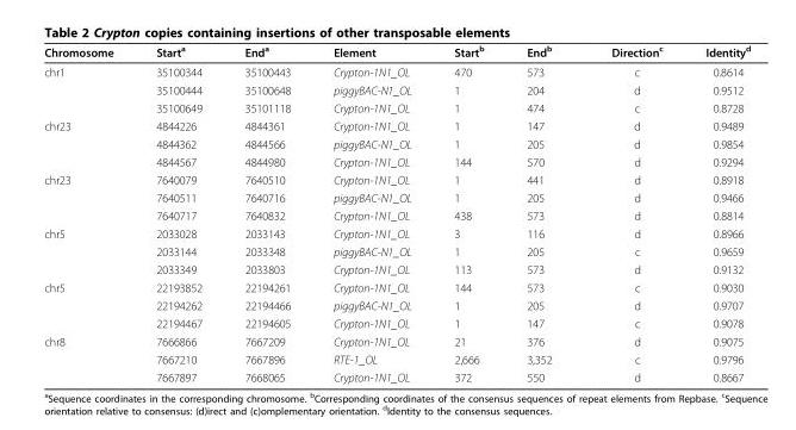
<table><thead><tr><td>Chromosome</td><td>Start<sup>a</sup></td><td>End<sup>a</sup></td><td>Element</td><td>Start<sup>b</sup></td><td>End<sup>b</sup></td><td>Direction<sup>c</sup></td><td>Identity<sup>d</sup></td></tr></thead><tbody><tr><td rowspan="3">chr1</td><td>35100344</td><td>35100443</td><td>Crypton-1N1_OL</td><td>470</td><td>573</td><td>c</td><td>0.8614</td></tr><tr><td>35100444</td><td>35100648</td><td>piggyBAC-N1_OL</td><td>1</td><td>204</td><td>d</td><td>0.9512</td></tr><tr><td>35100649</td><td>35101118</td><td>Crypton-1N1_OL</td><td>1</td><td>474</td><td>c</td><td>0.8728</td></tr><tr><td rowspan="3">chr23</td><td>4844226</td><td>4844361</td><td>Crypton-1N1_OL</td><td>1</td><td>147</td><td>d</td><td>0.9489</td></tr><tr><td>4844362</td><td>4844566</td><td>piggyBAC-N1_OL</td><td>1</td><td>205</td><td>d</td><td>0.9854</td></tr><tr><td>4844567</td><td>4844980</td><td>Crypton-1N1_OL</td><td>144</td><td>570</td><td>d</td><td>0.9294</td></tr><tr><td rowspan="3">chr23</td><td>7640079</td><td>7640510</td><td>Crypton-1N1_OL</td><td>1</td><td>441</td><td>d</td><td>0.8918</td></tr><tr><td>7640511</td><td>7640716</td><td>piggyBAC-N1_OL</td><td>1</td><td>205</td><td>d</td><td>0.9466</td></tr><tr><td>7640717</td><td>7640832</td><td>Crypton-1N1_OL</td><td>438</td><td>573</td><td>d</td><td>0.8814</td></tr><tr><td rowspan="3">chr5</td><td>2033028</td><td>2033143</td><td>Crypton-1N1_OL</td><td>3</td><td>116</td><td>d</td><td>0.8966</td></tr><tr><td>2033144</td><td>2033348</td><td>piggyBAC-N1_OL</td><td>1</td><td>205</td><td>c</td><td>0.9659</td></tr><tr><td>2033349</td><td>2033803</td><td>Crypton-1N1_OL</td><td>113</td><td>573</td><td>d</td><td>0.9132</td></tr><tr><td rowspan="3">chr5</td><td>22193852</td><td>22194261</td><td>Crypton-1N1_OL</td><td>144</td><td>573</td><td>c</td><td>0.9030</td></tr><tr><td>22194262</td><td>22194466</td><td>piggyBAC-N1_OL</td><td>1</td><td>205</td><td>d</td><td>0.9707</td></tr><tr><td>22194467</td><td>22194605</td><td>Crypton-1N1_OL</td><td>1</td><td>147</td><td>c</td><td>0.9078</td></tr><tr><td rowspan="3">chr8</td><td>7666866</td><td>7667209</td><td>Crypton-1N1_OL</td><td>21</td><td>376</td><td>d</td><td>0.9075</td></tr><tr><td>7667210</td><td>7667896</td><td>RTE-1_OL</td><td>2,666</td><td>3,352</td><td>c</td><td>0.9796</td></tr><tr><td>7667897</td><td>7668065</td><td>Crypton-1N1_OL</td><td>372</td><td>550</td><td>d</td><td>0.8667</td></tr></tbody></table>